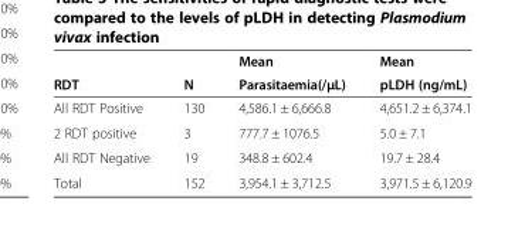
<table><thead><tr><td rowspan="2">RDT</td><td rowspan="2">N</td><td rowspan="2">Mean Parasitaemia(/μL)</td><td rowspan="2">Mean pLDH (ng/mL)</td></tr><tr></tr></thead><tbody><tr><td>All RDT Positive</td><td>130</td><td>4,586.1 ± 6,666.8</td><td>4,651.2 ± 6,374.1</td></tr><tr><td>2 RDT positive</td><td>3</td><td>777.7 ± 1076.5</td><td>5.0 ± 7.1</td></tr><tr><td>All RDT Negative</td><td>19</td><td>348.8 ± 602.4</td><td>19.7 ± 28.4</td></tr><tr><td>Total</td><td>152</td><td>3,954.1 ± 3,712.5</td><td>3,971.5 ± 6,120.9</td></tr></tbody></table>